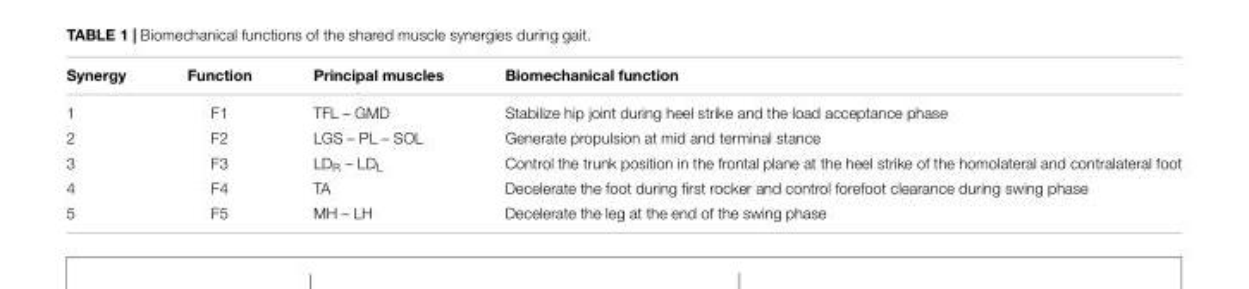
<table><thead><tr><td>Synergy</td><td>Function</td><td>Principal muscles</td><td>Biomechanical function</td></tr></thead><tbody><tr><td>1</td><td>F1</td><td>TFL – GMD</td><td>Stabilize hip joint during heel strike and the load acceptance phase</td></tr><tr><td>2</td><td>F2</td><td>LGS – PL – SOL</td><td>Generate propulsion at mid and terminal stance</td></tr><tr><td>3</td><td>F3</td><td>LD<sub>R</sub> – LD<sub>L</sub></td><td>Control the trunk position in the frontal plane at the heel strike of the homolateral and contralateral foot</td></tr><tr><td>4</td><td>F4</td><td>TA</td><td>Decelerate the foot during first rocker and control forefoot clearance during swing phase</td></tr><tr><td>5</td><td>F5</td><td>MH – LH</td><td>Decelerate the leg at the end of the swing phase</td></tr></tbody></table>